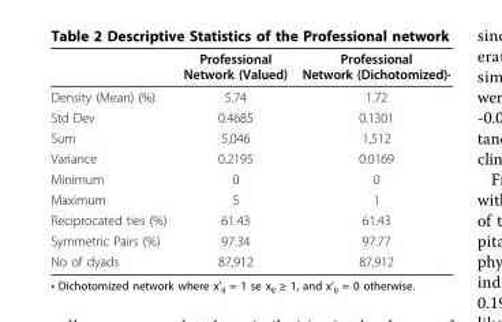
<table><thead><tr><td></td><td>Professional Network (Valued)</td><td>Professional Network (Dichotomized)·</td></tr></thead><tbody><tr><td>Density (Mean) (%)</td><td>5.74</td><td>1.72</td></tr><tr><td>Std Dev</td><td>0.4685</td><td>0.1301</td></tr><tr><td>Sum</td><td>5,046</td><td>1,512</td></tr><tr><td>Variance</td><td>0.2195</td><td>0.0169</td></tr><tr><td>Minimum</td><td>0</td><td>0</td></tr><tr><td>Maximum</td><td>5</td><td>1</td></tr><tr><td>Reciprocated ties (%)</td><td>61.43</td><td>61.43</td></tr><tr><td>Symmetric Pairs (%)</td><td>97.34</td><td>97.77</td></tr><tr><td>No of dyads</td><td>87,912</td><td>87,912</td></tr></tbody></table>